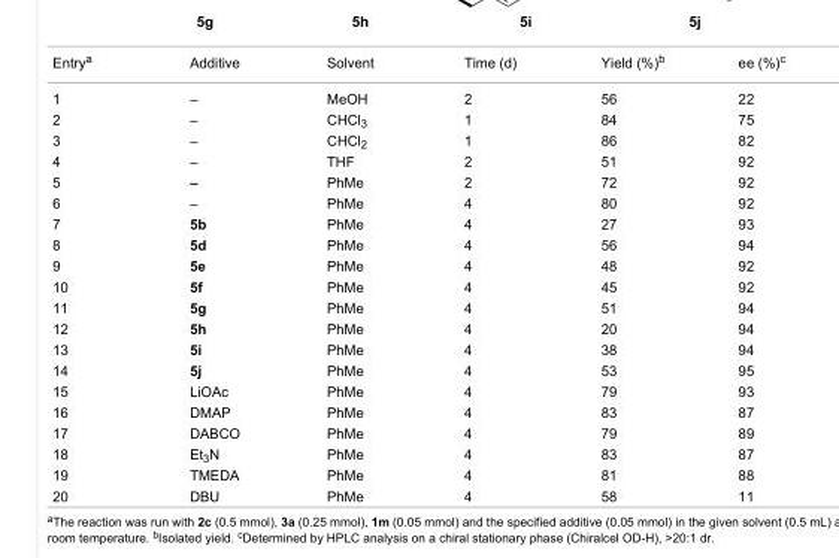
<table><tbody><tr><td>Entry<sup>a</sup></td><td>Additive</td><td>Solvent</td><td>Time (d)</td><td>Yield (%)<sup>b</sup></td><td>ee (%)<sup>c</sup></td></tr><tr><td>1</td><td>–</td><td>MeOH</td><td>2</td><td>56</td><td>22</td></tr><tr><td>2</td><td>–</td><td>CHCl<sub>3</sub></td><td>1</td><td>84</td><td>75</td></tr><tr><td>3</td><td>–</td><td>CHCl<sub>2</sub></td><td>1</td><td>86</td><td>82</td></tr><tr><td>4</td><td>–</td><td>THF</td><td>2</td><td>51</td><td>92</td></tr><tr><td>5</td><td>–</td><td>PhMe</td><td>2</td><td>72</td><td>92</td></tr><tr><td>6</td><td>–</td><td>PhMe</td><td>4</td><td>80</td><td>92</td></tr><tr><td>7</td><td>5b</td><td>PhMe</td><td>4</td><td>27</td><td>93</td></tr><tr><td>8</td><td>5d</td><td>PhMe</td><td>4</td><td>56</td><td>94</td></tr><tr><td>9</td><td>5e</td><td>PhMe</td><td>4</td><td>48</td><td>92</td></tr><tr><td>10</td><td>5f</td><td>PhMe</td><td>4</td><td>45</td><td>92</td></tr><tr><td>11</td><td>5g</td><td>PhMe</td><td>4</td><td>51</td><td>94</td></tr><tr><td>12</td><td>5h</td><td>PhMe</td><td>4</td><td>20</td><td>94</td></tr><tr><td>13</td><td>5i</td><td>PhMe</td><td>4</td><td>38</td><td>94</td></tr><tr><td>14</td><td>5j</td><td>PhMe</td><td>4</td><td>53</td><td>95</td></tr><tr><td>15</td><td>LiOAc</td><td>PhMe</td><td>4</td><td>79</td><td>93</td></tr><tr><td>16</td><td>DMAP</td><td>PhMe</td><td>4</td><td>83</td><td>87</td></tr><tr><td>17</td><td>DABCO</td><td>PhMe</td><td>4</td><td>79</td><td>89</td></tr><tr><td>18</td><td>Et<sub>3</sub>N</td><td>PhMe</td><td>4</td><td>83</td><td>87</td></tr><tr><td>19</td><td>TMEDA</td><td>PhMe</td><td>4</td><td>81</td><td>88</td></tr><tr><td>20</td><td>DBU</td><td>PhMe</td><td>4</td><td>58</td><td>11</td></tr></tbody></table>